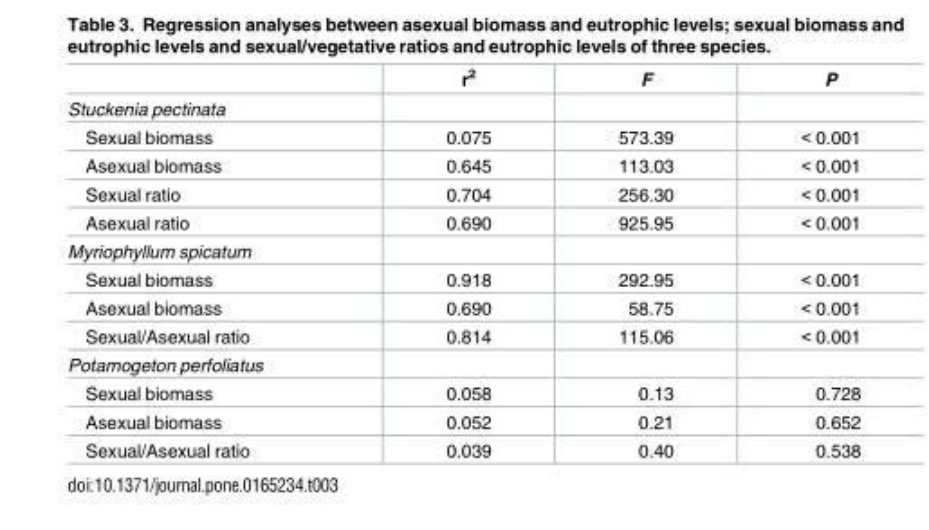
<table><thead><tr><td></td><td>r<sup>2</sup></td><td>F</td><td>P</td></tr></thead><tbody><tr><td colspan="4">Stuckenia pectinata</td></tr><tr><td>Sexual biomass</td><td>0.075</td><td>573.39</td><td>&lt; 0.001</td></tr><tr><td>Asexual biomass</td><td>0.645</td><td>113.03</td><td>&lt; 0.001</td></tr><tr><td>Sexual ratio</td><td>0.704</td><td>256.30</td><td>&lt; 0.001</td></tr><tr><td>Asexual ratio</td><td>0.690</td><td>925.95</td><td>&lt; 0.001</td></tr><tr><td colspan="4">Myriophyllum spicatum</td></tr><tr><td>Sexual biomass</td><td>0.918</td><td>292.95</td><td>&lt; 0.001</td></tr><tr><td>Asexual biomass</td><td>0.690</td><td>58.75</td><td>&lt; 0.001</td></tr><tr><td>Sexual/Asexual ratio</td><td>0.814</td><td>115.06</td><td>&lt; 0.001</td></tr><tr><td colspan="4">Potamogeton perfoliatus</td></tr><tr><td>Sexual biomass</td><td>0.058</td><td>0.13</td><td>0.728</td></tr><tr><td>Asexual biomass</td><td>0.052</td><td>0.21</td><td>0.652</td></tr><tr><td>Sexual/Asexual ratio</td><td>0.039</td><td>0.40</td><td>0.538</td></tr></tbody></table>